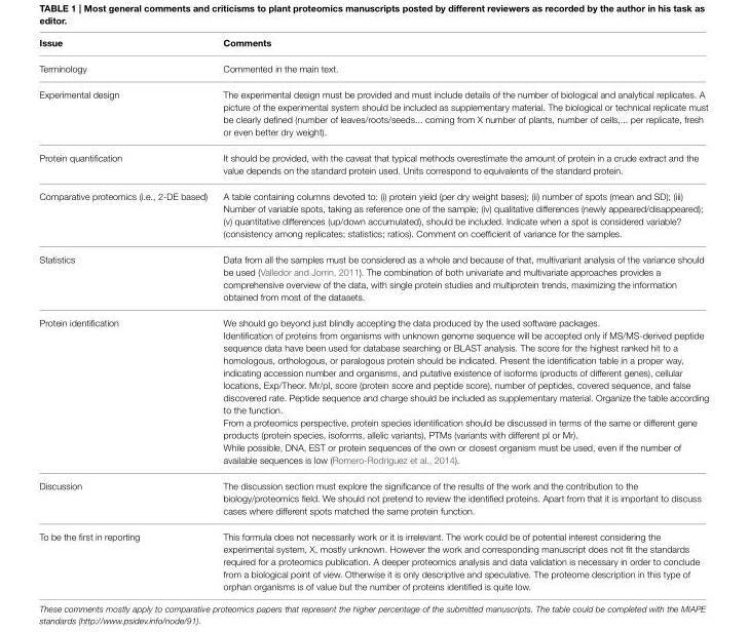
<table><thead><tr><td>Issue</td><td>Comments</td></tr></thead><tbody><tr><td>Terminology</td><td>Commented in the main text.</td></tr><tr><td>Experimental design</td><td>The experimental design must be provided and must include details of the number of biological and analytical replicates. A picture of the experimental system should be included as supplementary material. The biological or technical replicate must be clearly defined (number of leaves/roots/seeds... coming from X number of plants, number of cells,... per replicate, fresh or even better dry weight).</td></tr><tr><td>Protein quantification</td><td>It should be provided, with the caveat that typical methods overestimate the amount of protein in a crude extract and the value depends on the standard protein used. Units correspond to equivalents of the standard protein.</td></tr><tr><td>Comparative proteomics (i.e., 2-DE based)</td><td>A table containing columns devoted to: (i) protein yield (per dry weight bases); (ii) number of spots (mean and SD); (iii) Number of variable spots, taking as reference one of the sample; (iv) qualitative differences (newly appeared/disappeared); (v) quantitative differences (up/down accumulated), should be included. Indicate when a spot is considered variable? (consistency among replicates; statistics; ratios). Comment on coefficient of variance for the samples.</td></tr><tr><td>Statistics</td><td>Data from all the samples must be considered as a whole and because of that, multivariant analysis of the variance should be used (Valledor and Jorrin, 2011). The combination of both univariate and multivariate approaches provides a comprehensive overview of the data, with single protein studies and multiprotein trends, maximizing the information obtained from most of the datasets.</td></tr><tr><td>Protein identification</td><td>We should go beyond just blindly accepting the data produced by the used software packages. Identification of proteins from organisms with unknown genome sequence will be accepted only if MS/MS-derived peptide sequence data have been used for database searching or BLAST analysis. The score for the highest ranked hit to a homologous, orthologous, or paralogous protein should be indicated. Present the identification table in a proper way, indicating accession number and organisms, and putative existence of isoforms (products of different genes), cellular locations, Exp/Theor. Mr/pI, score (protein score and peptide score), number of peptides, covered sequence, and false discovered rate. Peptide sequence and charge should be included as supplementary material. Organize the table according to the function. From a proteomics perspective, protein species identification should be discussed in terms of the same or different gene products (protein species, isoforms, allelic variants), PTMs (variants with different pI or Mr). While possible, DNA, EST or protein sequences of the own or closest organism must be used, even if the number of available sequences is low (Romero-Rodriguez et al., 2014).</td></tr><tr><td>Discussion</td><td>The discussion section must explore the significance of the results of the work and the contribution to the biology/proteomics field. We should not pretend to review the identified proteins. Apart from that it is important to discuss cases where different spots matched the same protein function.</td></tr><tr><td>To be the first in reporting</td><td>This formula does not necessarily work or it is irrelevant. The work could be of potential interest considering the experimental system, X, mostly unknown. However the work and corresponding manuscript does not fit the standards required for a proteomics publication. A deeper proteomics analysis and data validation is necessary in order to conclude from a biological point of view. Otherwise it is only descriptive and speculative. The proteome description in this type of orphan organisms is of value but the number of proteins identified is quite low.</td></tr></tbody></table>